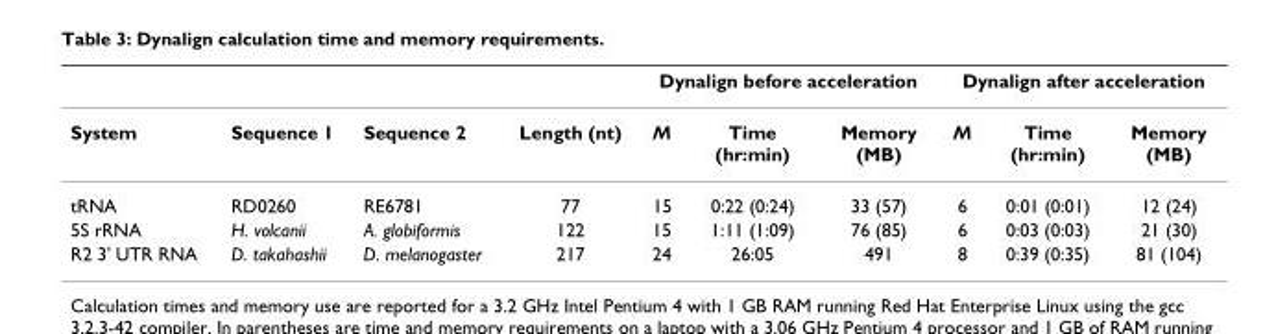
<table><thead><tr><td rowspan="2">System</td><td rowspan="2">Sequence 1</td><td rowspan="2">Sequence 2</td><td rowspan="2">Length (nt)</td><td colspan="3">Dynalign before acceleration</td><td colspan="3">Dynalign after acceleration</td></tr><tr><td>M</td><td>Time (hr:min)</td><td>Memory (MB)</td><td>M</td><td>Time (hr:min)</td><td>Memory (MB)</td></tr></thead><tbody><tr><td>tRNA</td><td>RD0260</td><td>RE6781</td><td>77</td><td>15</td><td>0:22 (0:24)</td><td>33 (57)</td><td>6</td><td>0:01 (0:01)</td><td>12 (24)</td></tr><tr><td>5S rRNA</td><td>H. volcanii</td><td>A. globiformis</td><td>122</td><td>15</td><td>1:11 (1:09)</td><td>76 (85)</td><td>6</td><td>0:03 (0:03)</td><td>21 (30)</td></tr><tr><td>R2 3&#x27; UTR RNA</td><td>D. takahashii</td><td>D. melanogaster</td><td>217</td><td>24</td><td>26:05</td><td>491</td><td>8</td><td>0:39 (0:35)</td><td>81 (104)</td></tr></tbody></table>